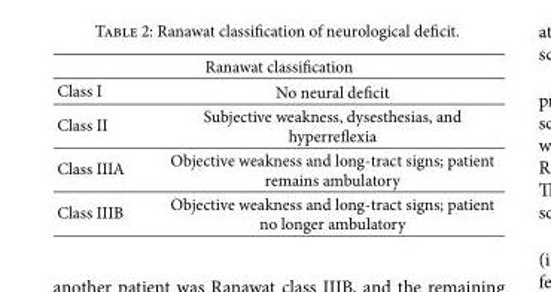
<table><tbody><tr><td colspan="2">Ranawat classification</td></tr><tr><td>Class I</td><td>No neural deficit</td></tr><tr><td>Class II</td><td>Subjective weakness, dysesthesias, and hyperreflexia</td></tr><tr><td>Class IIIA</td><td>Objective weakness and long-tract signs; patient remains ambulatory</td></tr><tr><td>Class IIIB</td><td>Objective weakness and long-tract signs; patient no longer ambulatory</td></tr></tbody></table>